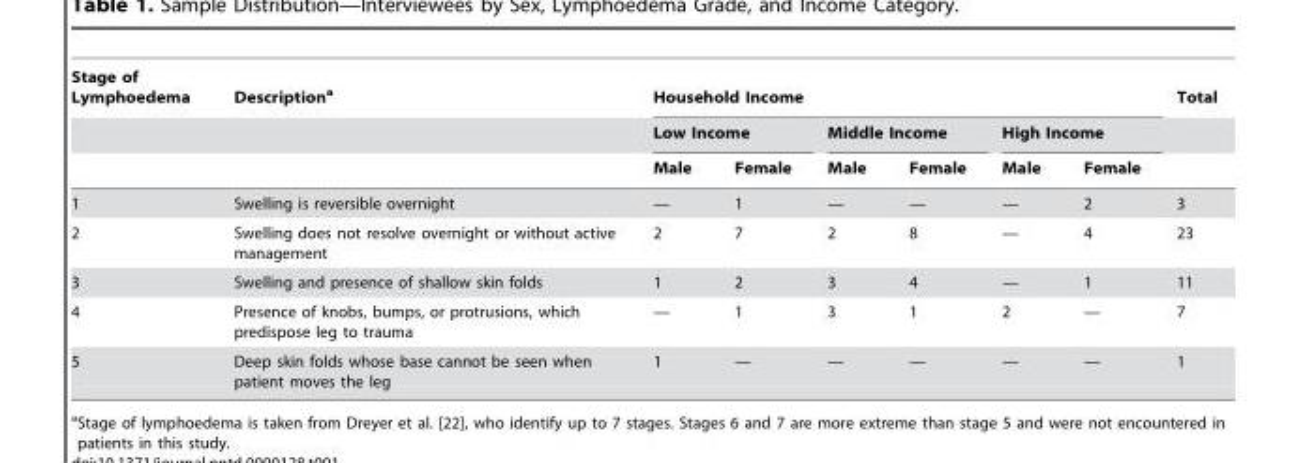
<table><thead><tr><td rowspan="3">Stage of Lymphoedema</td><td rowspan="3">Description<sup>a</sup></td><td colspan="6">Household Income</td><td rowspan="3">Total</td></tr><tr><td colspan="2">Low Income</td><td colspan="2">Middle Income</td><td colspan="2">High Income</td></tr><tr><td>Male</td><td>Female</td><td>Male</td><td>Female</td><td>Male</td><td>Female</td></tr></thead><tbody><tr><td>1</td><td>Swelling is reversible overnight</td><td>—</td><td>1</td><td>—</td><td>—</td><td>—</td><td>2</td><td>3</td></tr><tr><td>2</td><td>Swelling does not resolve overnight or without active management</td><td>2</td><td>7</td><td>2</td><td>8</td><td>—</td><td>4</td><td>23</td></tr><tr><td>3</td><td>Swelling and presence of shallow skin folds</td><td>1</td><td>2</td><td>3</td><td>4</td><td>—</td><td>1</td><td>11</td></tr><tr><td>4</td><td>Presence of knobs, bumps, or protrusions, which predispose leg to trauma</td><td>—</td><td>1</td><td>3</td><td>1</td><td>2</td><td>—</td><td>7</td></tr><tr><td>5</td><td>Deep skin folds whose base cannot be seen when patient moves the leg</td><td>1</td><td>—</td><td>—</td><td>—</td><td>—</td><td>—</td><td>1</td></tr></tbody></table>